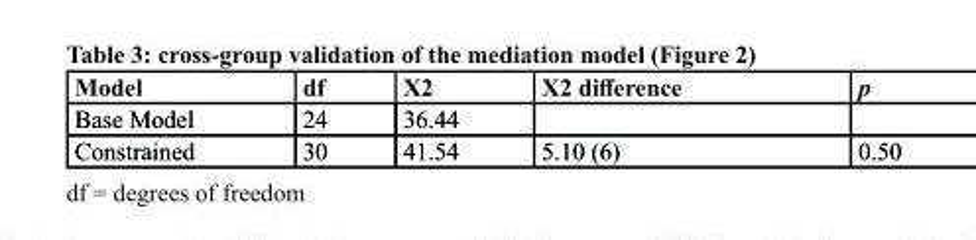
<table><thead><tr><td>Model</td><td>df</td><td>Χ2</td><td>Χ2 difference</td><td>p</td></tr></thead><tbody><tr><td>Base Model</td><td>24</td><td>36.44</td><td></td><td></td></tr><tr><td>Constrained</td><td>30</td><td>41.54</td><td>5.10 (6)</td><td>0.50</td></tr></tbody></table>